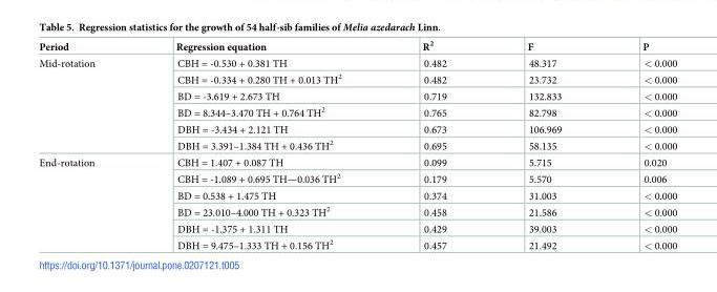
<table><thead><tr><td>Period</td><td>Regression equation</td><td>R<sup>2</sup></td><td>F</td><td>P</td></tr></thead><tbody><tr><td rowspan="6">Mid-rotation</td><td>CBH = -0.530 + 0.381 TH</td><td>0.482</td><td>48.317</td><td>&lt; 0.000</td></tr><tr><td>CBH = -0.334 + 0.280 TH + 0.013 TH<sup>2</sup></td><td>0.482</td><td>23.732</td><td>&lt; 0.000</td></tr><tr><td>BD = -3.619 + 2.673 TH</td><td>0.719</td><td>132.833</td><td>&lt; 0.000</td></tr><tr><td>BD = 8.344–3.470 TH + 0.764 TH<sup>2</sup></td><td>0.765</td><td>82.798</td><td>&lt; 0.000</td></tr><tr><td>DBH = -3.434 + 2.121 TH</td><td>0.673</td><td>106.969</td><td>&lt; 0.000</td></tr><tr><td>DBH = 3.391–1.384 TH + 0.436 TH<sup>2</sup></td><td>0.695</td><td>58.135</td><td>&lt; 0.000</td></tr><tr><td rowspan="6">End-rotation</td><td>CBH = 1.407 + 0.087 TH</td><td>0.099</td><td>5.715</td><td>0.020</td></tr><tr><td>CBH = -1.089 + 0.695 TH—0.036 TH<sup>2</sup></td><td>0.179</td><td>5.570</td><td>0.006</td></tr><tr><td>BD = 0.538 + 1.475 TH</td><td>0.374</td><td>31.003</td><td>&lt; 0.000</td></tr><tr><td>BD = 23.010–4.000 TH + 0.323 TH<sup>2</sup></td><td>0.458</td><td>21.586</td><td>&lt; 0.000</td></tr><tr><td>DBH = -1.375 + 1.311 TH</td><td>0.429</td><td>39.003</td><td>&lt; 0.000</td></tr><tr><td>DBH = 9.475–1.333 TH + 0.156 TH<sup>2</sup></td><td>0.457</td><td>21.492</td><td>&lt; 0.000</td></tr></tbody></table>